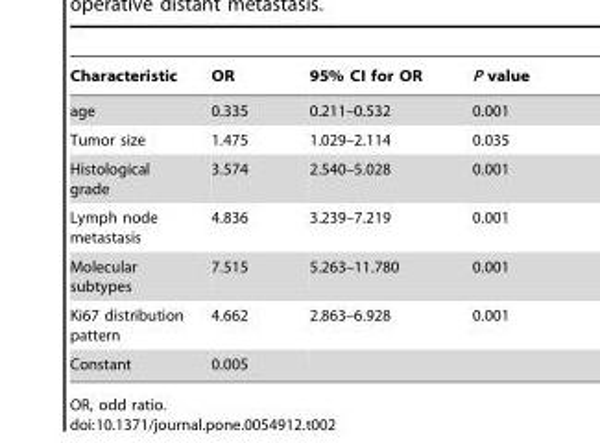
<table><thead><tr><td>Characteristic</td><td>OR</td><td>95% CI for OR</td><td>P value</td></tr></thead><tbody><tr><td>age</td><td>0.335</td><td>0.211–0.532</td><td>0.001</td></tr><tr><td>Tumor size</td><td>1.475</td><td>1.029–2.114</td><td>0.035</td></tr><tr><td>Histological grade</td><td>3.574</td><td>2.540–5.028</td><td>0.001</td></tr><tr><td>Lymph node metastasis</td><td>4.836</td><td>3.239–7.219</td><td>0.001</td></tr><tr><td>Molecular subtypes</td><td>7.515</td><td>5.263–11.780</td><td>0.001</td></tr><tr><td>Ki67 distribution pattern</td><td>4.662</td><td>2.863–6.928</td><td>0.001</td></tr><tr><td>Constant</td><td>0.005</td><td></td><td></td></tr></tbody></table>